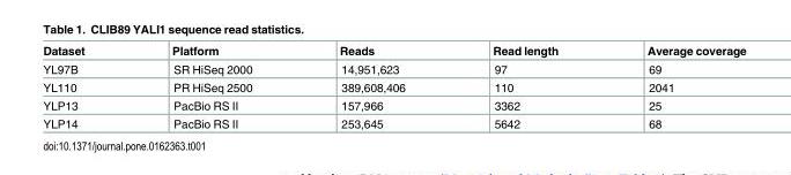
<table><thead><tr><td>Dataset</td><td>Platform</td><td>Reads</td><td>Read length</td><td>Average coverage</td></tr></thead><tbody><tr><td>YL97B</td><td>SR HiSeq 2000</td><td>14,951,623</td><td>97</td><td>69</td></tr><tr><td>YL110</td><td>PR HiSeq 2500</td><td>389,608,406</td><td>110</td><td>2041</td></tr><tr><td>YLP13</td><td>PacBio RS II</td><td>157,966</td><td>3362</td><td>25</td></tr><tr><td>YLP14</td><td>PacBio RS II</td><td>253,645</td><td>5642</td><td>68</td></tr></tbody></table>